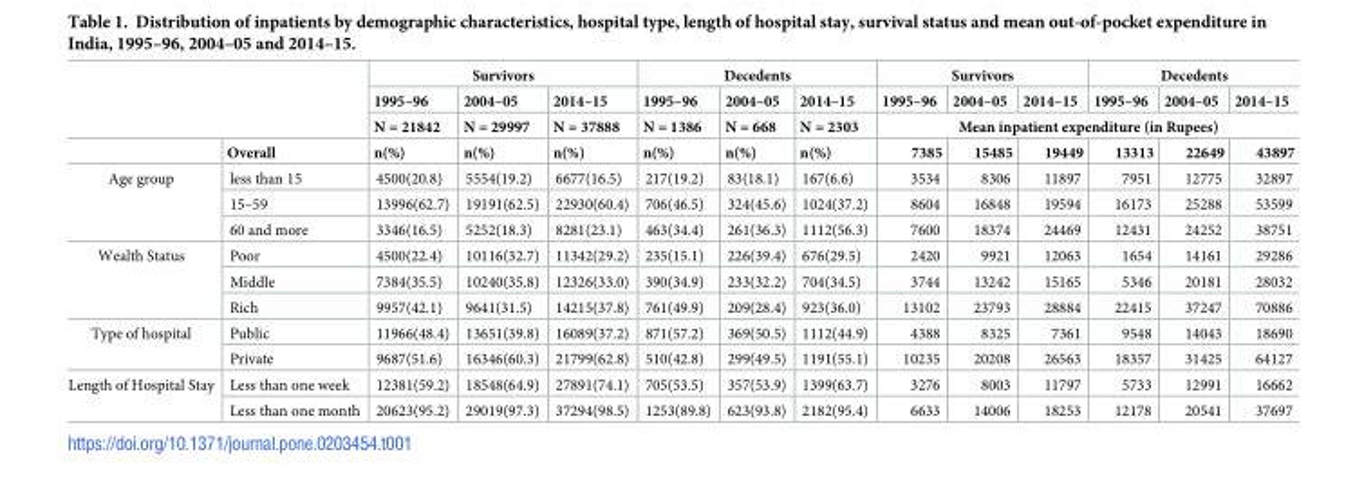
<table><thead><tr><td rowspan="4"></td><td rowspan="4">Overall</td><td colspan="3">Survivors</td><td colspan="3">Decedents</td><td colspan="3">Survivors</td><td colspan="3">Decedents</td></tr><tr><td rowspan="3">1995–96 N = 21842 n(%)</td><td rowspan="3">2004–05 N = 29997 n(%)</td><td rowspan="3">2014–15 N = 37888 n(%)</td><td rowspan="3">1995–96 N = 1386 n(%)</td><td rowspan="3">2004–05 N = 668 n(%)</td><td rowspan="3">2014–15 N = 2303 n(%)</td><td>1995–96</td><td>2004–05</td><td>2014–15</td><td>1995–96</td><td>2004–05</td><td>2014–15</td></tr><tr><td colspan="6">Mean inpatient expenditure (in Rupees)</td></tr><tr><td>7385</td><td>15485</td><td>19449</td><td>13313</td><td>22649</td><td>43897</td></tr></thead><tbody><tr><td rowspan="3">Age group</td><td>less than 15</td><td>4500(20.8)</td><td>5554(19.2)</td><td>6677(16.5)</td><td>217(19.2)</td><td>83(18.1)</td><td>167(6.6)</td><td>3534</td><td>8306</td><td>11897</td><td>7951</td><td>12775</td><td>32897</td></tr><tr><td>15–59</td><td>13996(62.7)</td><td>19191(62.5)</td><td>22930(60.4)</td><td>706(46.5)</td><td>324(45.6)</td><td>1024(37.2)</td><td>8604</td><td>16848</td><td>19594</td><td>16173</td><td>25288</td><td>53599</td></tr><tr><td>60 and more</td><td>3346(16.5)</td><td>5252(18.3)</td><td>8281(23.1)</td><td>463(34.4)</td><td>261(36.3)</td><td>1112(56.3)</td><td>7600</td><td>18374</td><td>24469</td><td>12431</td><td>24252</td><td>38751</td></tr><tr><td rowspan="3">Wealth Status</td><td>Poor</td><td>4500(22.4)</td><td>10116(32.7)</td><td>11342(29.2)</td><td>235(15.1)</td><td>226(39.4)</td><td>676(29.5)</td><td>2420</td><td>9921</td><td>12063</td><td>1654</td><td>14161</td><td>29286</td></tr><tr><td>Middle</td><td>7384(35.5)</td><td>10240(35.8)</td><td>12326(33.0)</td><td>390(34.9)</td><td>233(32.2)</td><td>704(34.5)</td><td>3744</td><td>13242</td><td>15165</td><td>5346</td><td>20181</td><td>28032</td></tr><tr><td>Rich</td><td>9957(42.1)</td><td>9641(31.5)</td><td>14215(37.8)</td><td>761(49.9)</td><td>209(28.4)</td><td>923(36.0)</td><td>13102</td><td>23793</td><td>28884</td><td>22415</td><td>37247</td><td>70886</td></tr><tr><td rowspan="2">Type of hospital</td><td>Public</td><td>11966(48.4)</td><td>13651(39.8)</td><td>16089(37.2)</td><td>871(57.2)</td><td>369(50.5)</td><td>1112(44.9)</td><td>4388</td><td>8325</td><td>7361</td><td>9548</td><td>14043</td><td>18690</td></tr><tr><td>Private</td><td>9687(51.6)</td><td>16346(60.3)</td><td>21799(62.8)</td><td>510(42.8)</td><td>299(49.5)</td><td>1191(55.1)</td><td>10235</td><td>20208</td><td>26563</td><td>18357</td><td>31425</td><td>64127</td></tr><tr><td rowspan="2">Length of Hospital Stay</td><td>Less than one week</td><td>12381(59.2)</td><td>18548(64.9)</td><td>27891(74.1)</td><td>705(53.5)</td><td>357(53.9)</td><td>1399(63.7)</td><td>3276</td><td>8003</td><td>11797</td><td>5733</td><td>12991</td><td>16662</td></tr><tr><td>Less than one month</td><td>20623(95.2)</td><td>29019(97.3)</td><td>37294(98.5)</td><td>1253(89.8)</td><td>623(93.8)</td><td>2182(95.4)</td><td>6633</td><td>14006</td><td>18253</td><td>12178</td><td>20541</td><td>37697</td></tr></tbody></table>